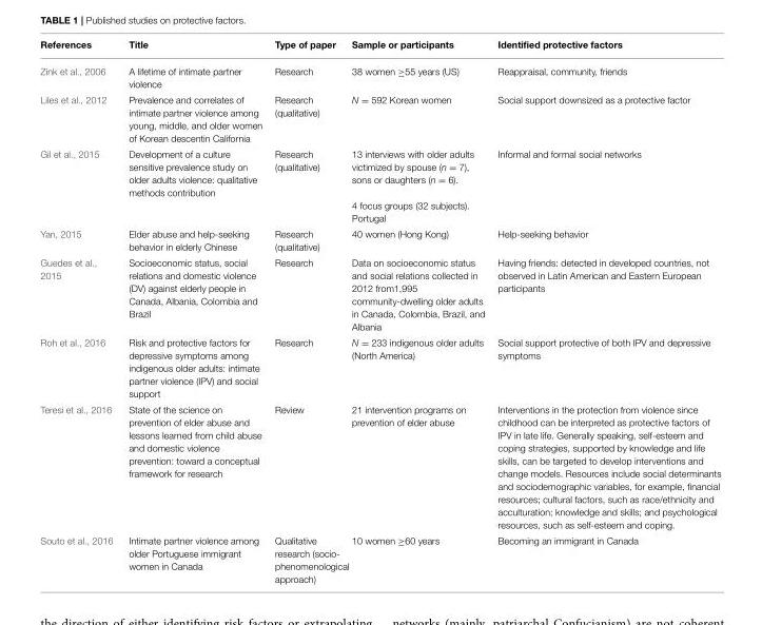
<table><thead><tr><td>References</td><td>Title</td><td>Type of paper</td><td>Sample or participants</td><td>Identified protective factors</td></tr></thead><tbody><tr><td>Zink et al., 2006</td><td>A lifetime of intimate partner violence</td><td>Research</td><td>38 women ≥55 years (US)</td><td>Reappraisal, community, friends</td></tr><tr><td>Liles et al., 2012</td><td>Prevalence and correlates of intimate partner violence among young, middle, and older women of Korean descentin California</td><td>Research (qualitative)</td><td>N = 592 Korean women</td><td>Social support downsized as a protective factor</td></tr><tr><td>Gil et al., 2015</td><td>Development of a culture sensitive prevalence study on older adults violence: qualitative methods contribution</td><td>Research (qualitative)</td><td>13 interviews with older adults victimized by spouse (n = 7), sons or daughters (n = 6). 4 focus groups (32 subjects). Portugal</td><td>Informal and formal social networks</td></tr><tr><td>Yan, 2015</td><td>Elder abuse and help-seeking behavior in elderly Chinese</td><td>Research (qualitative)</td><td>40 women (Hong Kong)</td><td>Help-seeking behavior</td></tr><tr><td>Guedes et al., 2015</td><td>Socioeconomic status, social relations and domestic violence (DV) against elderly people in Canada, Albania, Colombia and Brazil</td><td>Research</td><td>Data on socioeconomic status and social relations collected in 2012 from1,995 community-dwelling older adults in Canada, Colombia, Brazil, and Albania</td><td>Having friends: detected in developed countries, not observed in Latin American and Eastern European participants</td></tr><tr><td>Roh et al., 2016</td><td>Risk and protective factors for depressive symptoms among indigenous older adults: intimate partner violence (IPV) and social support</td><td>Research</td><td>N = 233 indigenous older adults (North America)</td><td>Social support protective of both IPV and depressive symptoms</td></tr><tr><td>Teresi et al., 2016</td><td>State of the science on prevention of elder abuse and lessons learned from child abuse and domestic violence prevention: toward a conceptual framework for research</td><td>Review</td><td>21 intervention programs on prevention of elder abuse</td><td>Interventions in the protection from violence since childhood can be interpreted as protective factors of IPV in late life. Generally speaking, self-esteem and coping strategies, supported by knowledge and life skills, can be targeted to develop interventions and change models. Resources include social determinants and sociodemographic variables, for example, financial resources; cultural factors, such as race/ethnicity and acculturation; knowledge and skills; and psychological resources, such as self-esteem and coping.</td></tr><tr><td>Souto et al., 2016</td><td>Intimate partner violence among older Portuguese immigrant women in Canada</td><td>Qualitative research (socio- phenomenological approach)</td><td>10 women ≥60 years</td><td>Becoming an immigrant in Canada</td></tr></tbody></table>